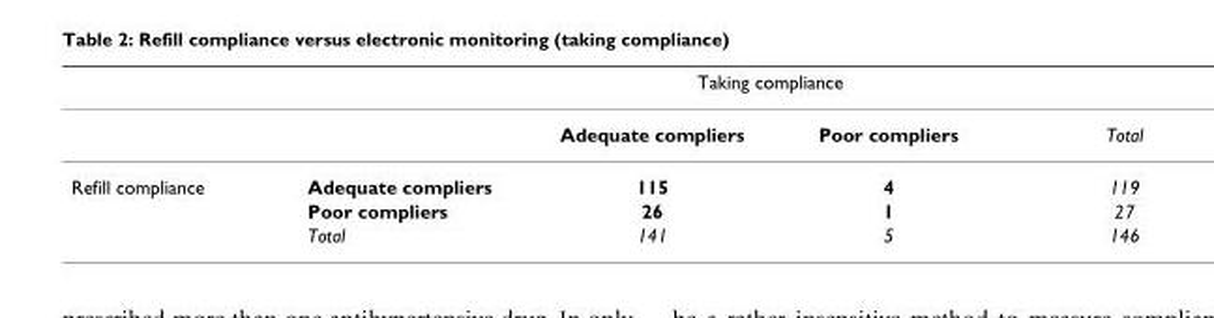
<table><thead><tr><td rowspan="2"></td><td rowspan="2"></td><td colspan="2">Taking compliance</td><td rowspan="2">Total</td></tr><tr><td>Adequate compliers</td><td>Poor compliers</td></tr></thead><tbody><tr><td rowspan="3">Refill compliance</td><td>Adequate compliers</td><td>115</td><td>4</td><td>119</td></tr><tr><td>Poor compliers</td><td>26</td><td>1</td><td>27</td></tr><tr><td>Total</td><td>141</td><td>5</td><td>146</td></tr></tbody></table>